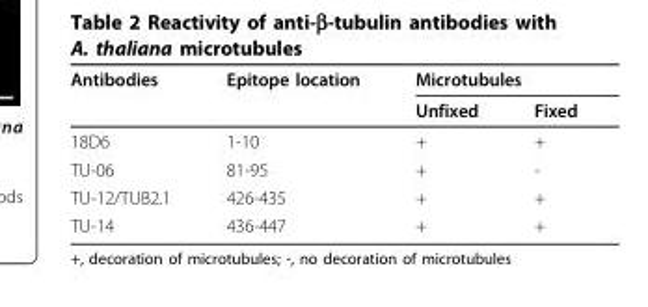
<table><thead><tr><td rowspan="2">Antibodies</td><td rowspan="2">Epitope location</td><td colspan="2">Microtubules</td></tr><tr><td>Unfixed</td><td>Fixed</td></tr></thead><tbody><tr><td>18D6</td><td>1-10</td><td>+</td><td>+</td></tr><tr><td>TU-06</td><td>81-95</td><td>+</td><td>-</td></tr><tr><td>TU-12/TUB2.1</td><td>426-435</td><td>+</td><td>+</td></tr><tr><td>TU-14</td><td>436-447</td><td>+</td><td>+</td></tr></tbody></table>